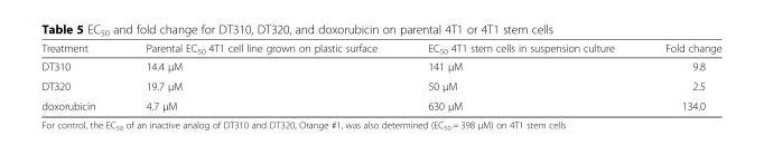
<table><thead><tr><td>Treatment</td><td>Parental EC<sub>50</sub> 4T1 cell line grown on plastic surface</td><td>EC<sub>50</sub> 4T1 stem cells in suspension culture</td><td>Fold change</td></tr></thead><tbody><tr><td>DT310</td><td>14.4 μM</td><td>141 μM</td><td>9.8</td></tr><tr><td>DT320</td><td>19.7 μM</td><td>50 μM</td><td>2.5</td></tr><tr><td>doxorubicin</td><td>4.7 μM</td><td>630 μM</td><td>134.0</td></tr></tbody></table>